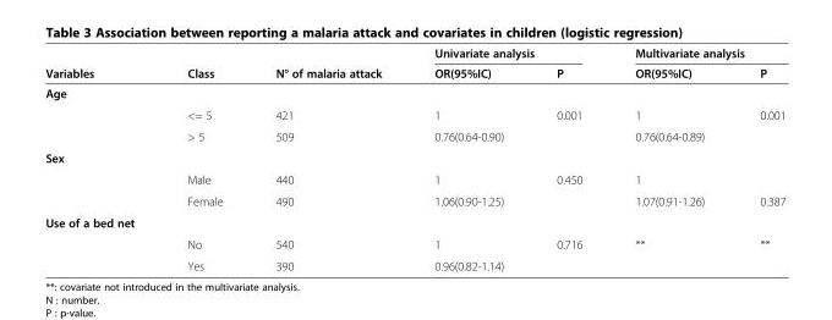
<table><thead><tr><td rowspan="2">Variables</td><td rowspan="2">Class</td><td rowspan="2">N° of malaria attack</td><td colspan="2">Univariate analysis</td><td colspan="2">Multivariate analysis</td></tr><tr><td>OR(95%IC)</td><td>P</td><td>OR(95%IC)</td><td>P</td></tr></thead><tbody><tr><td colspan="7">Age</td></tr><tr><td></td><td>&lt;= 5</td><td>421</td><td>1</td><td>0.001</td><td>1</td><td>0.001</td></tr><tr><td></td><td>&gt; 5</td><td>509</td><td>0.76(0.64-0.90)</td><td></td><td>0.76(0.64-0.89)</td><td></td></tr><tr><td colspan="7">Sex</td></tr><tr><td></td><td>Male</td><td>440</td><td>1</td><td>0.450</td><td>1</td><td></td></tr><tr><td></td><td>Female</td><td>490</td><td>1.06(0.90-1.25)</td><td></td><td>1.07(0.91-1.26)</td><td>0.387</td></tr><tr><td colspan="7">Use of a bed net</td></tr><tr><td></td><td>No</td><td>540</td><td>1</td><td>0.716</td><td>**</td><td>**</td></tr><tr><td></td><td>Yes</td><td>390</td><td>0.96(0.82-1.14)</td><td></td><td></td><td></td></tr></tbody></table>